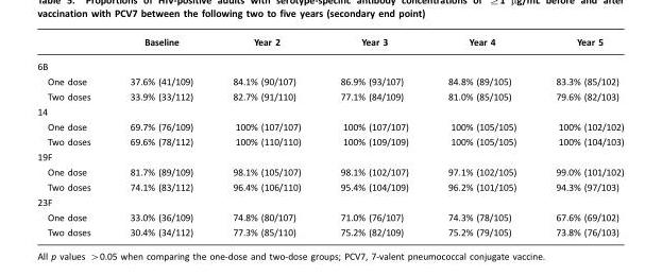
<table><thead><tr><td></td><td>Baseline</td><td>Year 2</td><td>Year 3</td><td>Year 4</td><td>Year 5</td></tr></thead><tbody><tr><td colspan="6">6B</td></tr><tr><td>One dose</td><td>37.6% (41/109)</td><td>84.1% (90/107)</td><td>86.9% (93/107)</td><td>84.8% (89/105)</td><td>83.3% (85/102)</td></tr><tr><td>Two doses</td><td>33.9% (33/112)</td><td>82.7% (91/110)</td><td>77.1% (84/109)</td><td>81.0% (85/105)</td><td>79.6% (82/103)</td></tr><tr><td colspan="6">14</td></tr><tr><td>One dose</td><td>69.7% (76/109)</td><td>100% (107/107)</td><td>100% (107/107)</td><td>100% (105/105)</td><td>100% (102/102)</td></tr><tr><td>Two doses</td><td>69.6% (78/112)</td><td>100% (110/110)</td><td>100% (109/109)</td><td>100% (105/105)</td><td>100% (104/103)</td></tr><tr><td colspan="6">19F</td></tr><tr><td>One dose</td><td>81.7% (89/109)</td><td>98.1% (105/107)</td><td>98.1% (102/107)</td><td>97.1% (102/105)</td><td>99.0% (101/102)</td></tr><tr><td>Two doses</td><td>74.1% (83/112)</td><td>96.4% (106/110)</td><td>95.4% (104/109)</td><td>96.2% (101/105)</td><td>94.3% (97/103)</td></tr><tr><td colspan="6">23F</td></tr><tr><td>One dose</td><td>33.0% (36/109)</td><td>74.8% (80/107)</td><td>71.0% (76/107)</td><td>74.3% (78/105)</td><td>67.6% (69/102)</td></tr><tr><td>Two doses</td><td>30.4% (34/112)</td><td>77.3% (85/110)</td><td>75.2% (82/109)</td><td>75.2% (79/105)</td><td>73.8% (76/103)</td></tr></tbody></table>